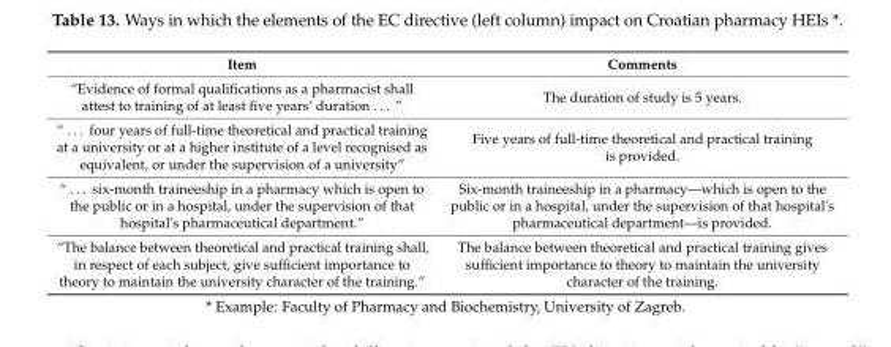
<table><thead><tr><td>Item</td><td>Comments</td></tr></thead><tbody><tr><td>“Evidence of formal qualifications as a pharmacist shall attest to training of at least five years’ duration . . . ”</td><td>The duration of study is 5 years.</td></tr><tr><td>“ . . . four years of full-time theoretical and practical training at a university or at a higher institute of a level recognised as equivalent, or under the supervision of a university”</td><td>Five years of full-time theoretical and practical training is provided.</td></tr><tr><td>“ . . . six-month traineeship in a pharmacy which is open to the public or in a hospital, under the supervision of that hospital&#x27;s pharmaceutical department.”</td><td>Six-month traineeship in a pharmacy—which is open to the public or in a hospital, under the supervision of that hospital&#x27;s pharmaceutical department—is provided.</td></tr><tr><td>“The balance between theoretical and practical training shall, in respect of each subject, give sufficient importance to theory to maintain the university character of the training.”</td><td>The balance between theoretical and practical training gives sufficient importance to theory to maintain the university character of the training.</td></tr></tbody></table>